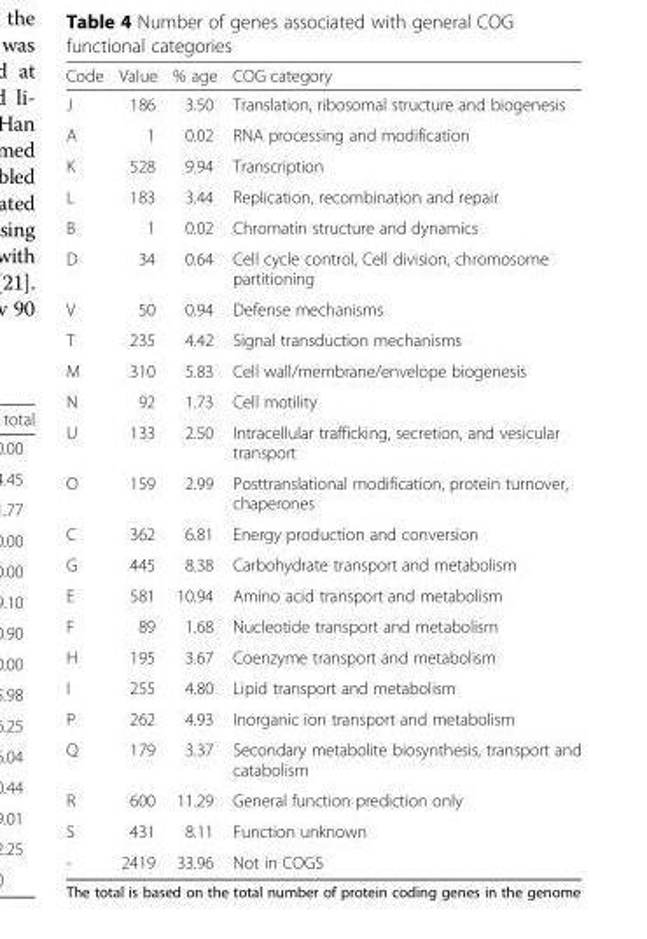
<table><thead><tr><td>Code</td><td>Value</td><td>% age</td><td>COG category</td></tr></thead><tbody><tr><td>J</td><td>186</td><td>3.50</td><td>Translation, ribosomal structure and biogenesis</td></tr><tr><td>A</td><td>1</td><td>0.02</td><td>RNA processing and modification</td></tr><tr><td>K</td><td>528</td><td>9.94</td><td>Transcription</td></tr><tr><td>L</td><td>183</td><td>3.44</td><td>Replication, recombination and repair</td></tr><tr><td>B</td><td>1</td><td>0.02</td><td>Chromatin structure and dynamics</td></tr><tr><td>D</td><td>34</td><td>0.64</td><td>Cell cycle control, Cell division, chromosome partitioning</td></tr><tr><td>V</td><td>50</td><td>0.94</td><td>Defense mechanisms</td></tr><tr><td>T</td><td>235</td><td>4.42</td><td>Signal transduction mechanisms</td></tr><tr><td>M</td><td>310</td><td>5.83</td><td>Cell wall/membrane/envelope biogenesis</td></tr><tr><td>N</td><td>92</td><td>1.73</td><td>Cell motility</td></tr><tr><td>U</td><td>133</td><td>2.50</td><td>Intracellular trafficking, secretion, and vesicular transport</td></tr><tr><td>O</td><td>159</td><td>2.99</td><td>Posttranslational modification, protein turnover, chaperones</td></tr><tr><td>C</td><td>362</td><td>6.81</td><td>Energy production and conversion</td></tr><tr><td>G</td><td>445</td><td>8.38</td><td>Carbohydrate transport and metabolism</td></tr><tr><td>E</td><td>581</td><td>10.94</td><td>Amino acid transport and metabolism</td></tr><tr><td>F</td><td>89</td><td>1.68</td><td>Nucleotide transport and metabolism</td></tr><tr><td>H</td><td>195</td><td>3.67</td><td>Coenzyme transport and metabolism</td></tr><tr><td>I</td><td>255</td><td>4.80</td><td>Lipid transport and metabolism</td></tr><tr><td>P</td><td>262</td><td>4.93</td><td>Inorganic ion transport and metabolism</td></tr><tr><td>Q</td><td>179</td><td>3.37</td><td>Secondary metabolite biosynthesis, transport and catabolism</td></tr><tr><td>R</td><td>600</td><td>11.29</td><td>General function prediction only</td></tr><tr><td>S</td><td>431</td><td>8.11</td><td>Function unknown</td></tr><tr><td>-</td><td>2419</td><td>33.96</td><td>Not in COGS</td></tr></tbody></table>